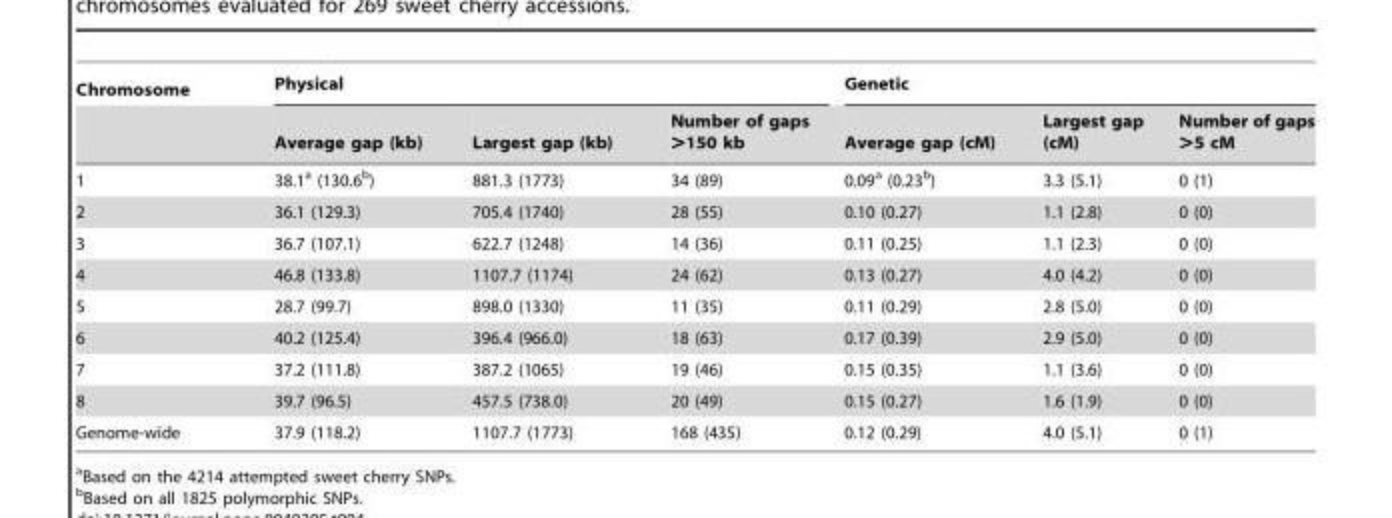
<table><thead><tr><td rowspan="2">Chromosome</td><td colspan="3">Physical</td><td colspan="3">Genetic</td></tr><tr><td>Average gap (kb)</td><td>Largest gap (kb)</td><td>Number of gaps &gt;150 kb</td><td>Average gap (cM)</td><td>Largest gap (cM)</td><td>Number of gaps &gt;5 cM</td></tr></thead><tbody><tr><td>1</td><td>38.1<sup>a</sup> (130.6<sup>b</sup>)</td><td>881.3 (1773)</td><td>34 (89)</td><td>0.09<sup>a</sup> (0.23<sup>b</sup>)</td><td>3.3 (5.1)</td><td>0 (1)</td></tr><tr><td>2</td><td>36.1 (129.3)</td><td>705.4 (1740)</td><td>28 (55)</td><td>0.10 (0.27)</td><td>1.1 (2.8)</td><td>0 (0)</td></tr><tr><td>3</td><td>36.7 (107.1)</td><td>622.7 (1248)</td><td>14 (36)</td><td>0.11 (0.25)</td><td>1.1 (2.3)</td><td>0 (0)</td></tr><tr><td>4</td><td>46.8 (133.8)</td><td>1107.7 (1174)</td><td>24 (62)</td><td>0.13 (0.27)</td><td>4.0 (4.2)</td><td>0 (0)</td></tr><tr><td>5</td><td>28.7 (99.7)</td><td>898.0 (1330)</td><td>11 (35)</td><td>0.11 (0.29)</td><td>2.8 (5.0)</td><td>0 (0)</td></tr><tr><td>6</td><td>40.2 (125.4)</td><td>396.4 (966.0)</td><td>18 (63)</td><td>0.17 (0.39)</td><td>2.9 (5.0)</td><td>0 (0)</td></tr><tr><td>7</td><td>37.2 (111.8)</td><td>387.2 (1065)</td><td>19 (46)</td><td>0.15 (0.35)</td><td>1.1 (3.6)</td><td>0 (0)</td></tr><tr><td>8</td><td>39.7 (96.5)</td><td>457.5 (738.0)</td><td>20 (49)</td><td>0.15 (0.27)</td><td>1.6 (1.9)</td><td>0 (0)</td></tr><tr><td>Genome-wide</td><td>37.9 (118.2)</td><td>1107.7 (1773)</td><td>168 (435)</td><td>0.12 (0.29)</td><td>4.0 (5.1)</td><td>0 (1)</td></tr></tbody></table>